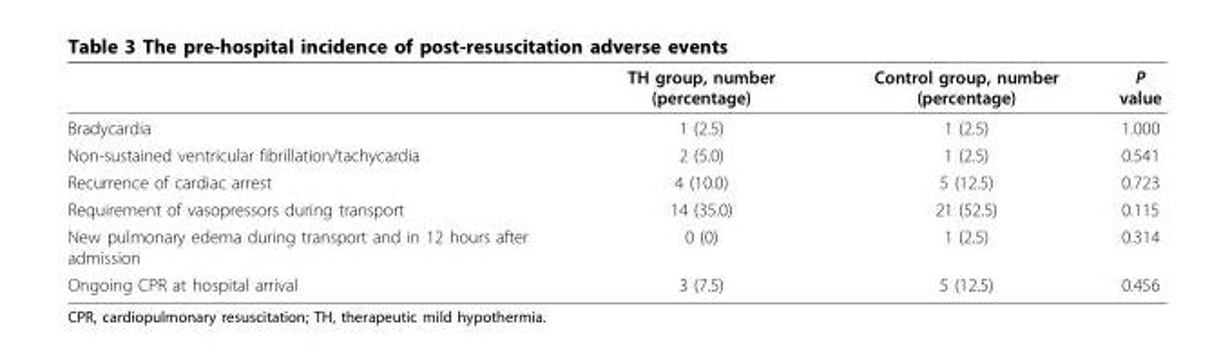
<table><thead><tr><td></td><td>TH group, number (percentage)</td><td>Control group, number (percentage)</td><td>P value</td></tr></thead><tbody><tr><td>Bradycardia</td><td>1 (2.5)</td><td>1 (2.5)</td><td>1.000</td></tr><tr><td>Non-sustained ventricular fibrillation/tachycardia</td><td>2 (5.0)</td><td>1 (2.5)</td><td>0.541</td></tr><tr><td>Recurrence of cardiac arrest</td><td>4 (10.0)</td><td>5 (12.5)</td><td>0.723</td></tr><tr><td>Requirement of vasopressors during transport</td><td>14 (35.0)</td><td>21 (52.5)</td><td>0.115</td></tr><tr><td>New pulmonary edema during transport and in 12 hours after admission</td><td>0 (0)</td><td>1 (2.5)</td><td>0.314</td></tr><tr><td>Ongoing CPR at hospital arrival</td><td>3 (7.5)</td><td>5 (12.5)</td><td>0.456</td></tr></tbody></table>